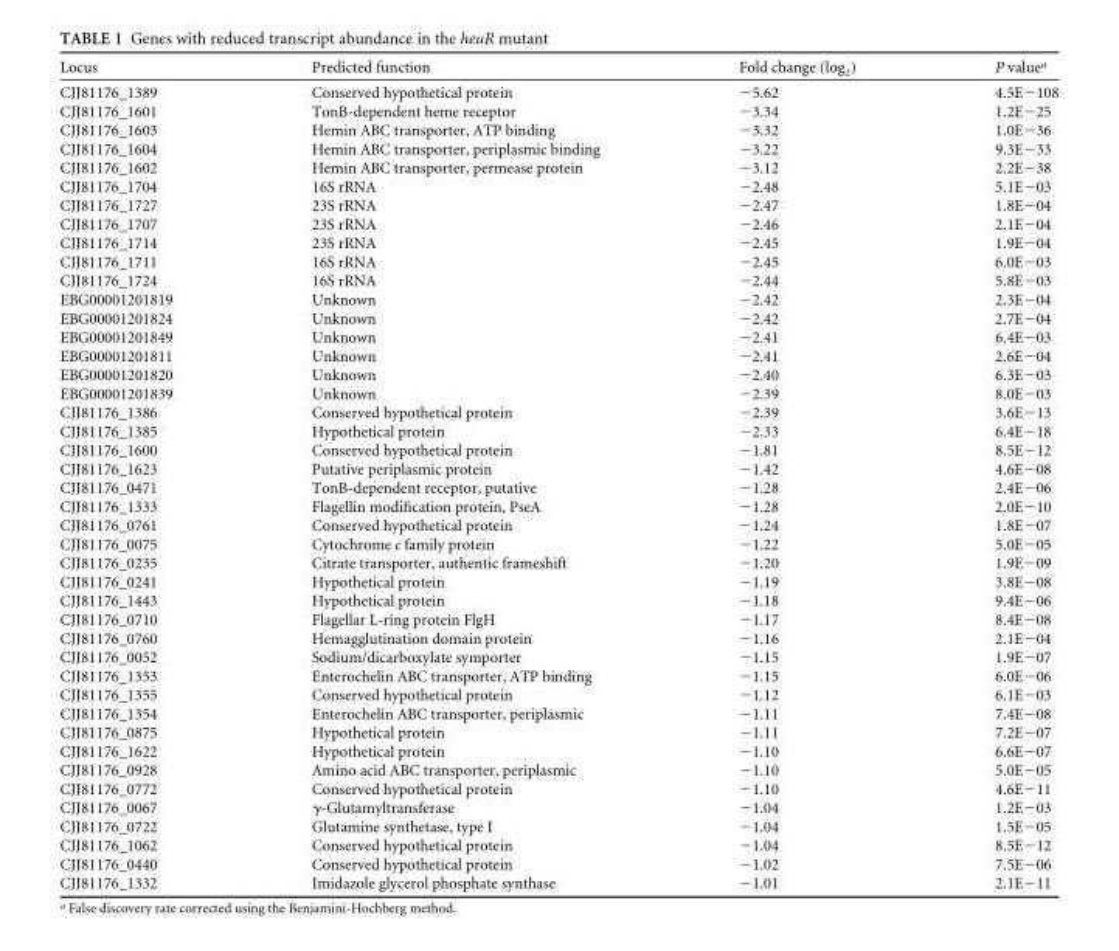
<table><thead><tr><td>Locus</td><td>Predicted function</td><td>Fold change (log<sub>2</sub>)</td><td>P value<sup>a</sup></td></tr></thead><tbody><tr><td>CJJ81176_1389</td><td>Conserved hypothetical protein</td><td>−5.62</td><td>4.5E−108</td></tr><tr><td>CJJ81176_1601</td><td>TonB-dependent heme receptor</td><td>−3.34</td><td>1.2E−25</td></tr><tr><td>CJJ81176_1603</td><td>Hemin ABC transporter, ATP binding</td><td>−3.32</td><td>1.0E−36</td></tr><tr><td>CJJ81176_1604</td><td>Hemin ABC transporter, periplasmic binding</td><td>−3.22</td><td>9.3E−33</td></tr><tr><td>CJJ81176_1602</td><td>Hemin ABC transporter, permease protein</td><td>−3.12</td><td>2.2E−38</td></tr><tr><td>CJJ81176_1704</td><td>16S rRNA</td><td>−2.48</td><td>5.1E−03</td></tr><tr><td>CJJ81176_1727</td><td>23S rRNA</td><td>−2.47</td><td>1.8E−04</td></tr><tr><td>CJJ81176_1707</td><td>23S rRNA</td><td>−2.46</td><td>2.1E−04</td></tr><tr><td>CJJ81176_1714</td><td>23S rRNA</td><td>−2.45</td><td>1.9E−04</td></tr><tr><td>CJJ81176_1711</td><td>16S rRNA</td><td>−2.45</td><td>6.0E−03</td></tr><tr><td>CJJ81176_1724</td><td>16S rRNA</td><td>−2.44</td><td>5.8E−03</td></tr><tr><td>EBG00001201819</td><td>Unknown</td><td>−2.42</td><td>2.3E−04</td></tr><tr><td>EBG00001201824</td><td>Unknown</td><td>−2.42</td><td>2.7E−04</td></tr><tr><td>EBG00001201849</td><td>Unknown</td><td>−2.41</td><td>6.4E−03</td></tr><tr><td>EBG00001201811</td><td>Unknown</td><td>−2.41</td><td>2.6E−04</td></tr><tr><td>EBG00001201820</td><td>Unknown</td><td>−2.40</td><td>6.3E−03</td></tr><tr><td>EBG00001201839</td><td>Unknown</td><td>−2.39</td><td>8.0E−03</td></tr><tr><td>CJJ81176_1386</td><td>Conserved hypothetical protein</td><td>−2.39</td><td>3.6E−13</td></tr><tr><td>CJJ81176_1385</td><td>Hypothetical protein</td><td>−2.33</td><td>6.4E−18</td></tr><tr><td>CJJ81176_1600</td><td>Conserved hypothetical protein</td><td>−1.81</td><td>8.5E−12</td></tr><tr><td>CJJ81176_1623</td><td>Putative periplasmic protein</td><td>−1.42</td><td>4.6E−08</td></tr><tr><td>CJJ81176_0471</td><td>TonB-dependent receptor, putative</td><td>−1.28</td><td>2.4E−06</td></tr><tr><td>CJJ81176_1333</td><td>Flagellin modification protein, PseA</td><td>−1.28</td><td>2.0E−10</td></tr><tr><td>CJJ81176_0761</td><td>Conserved hypothetical protein</td><td>−1.24</td><td>1.8E−07</td></tr><tr><td>CJJ81176_0075</td><td>Cytochrome c family protein</td><td>−1.22</td><td>5.0E−05</td></tr><tr><td>CJJ81176_0235</td><td>Citrate transporter, authentic frameshift</td><td>−1.20</td><td>1.9E−09</td></tr><tr><td>CJJ81176_0241</td><td>Hypothetical protein</td><td>−1.19</td><td>3.8E−08</td></tr><tr><td>CJJ81176_1443</td><td>Hypothetical protein</td><td>−1.18</td><td>9.4E−06</td></tr><tr><td>CJJ81176_0710</td><td>Flagellar L-ring protein FlgH</td><td>−1.17</td><td>8.4E−08</td></tr><tr><td>CJJ81176_0760</td><td>Hemagglutination domain protein</td><td>−1.16</td><td>2.1E−04</td></tr><tr><td>CJJ81176_0052</td><td>Sodium/dicarboxylate symporter</td><td>−1.15</td><td>1.9E−07</td></tr><tr><td>CJJ81176_1353</td><td>Enterochelin ABC transporter, ATP binding</td><td>−1.15</td><td>6.0E−06</td></tr><tr><td>CJJ81176_1355</td><td>Conserved hypothetical protein</td><td>−1.12</td><td>6.1E−03</td></tr><tr><td>CJJ81176_1354</td><td>Enterochelin ABC transporter, periplasmic</td><td>−1.11</td><td>7.4E−08</td></tr><tr><td>CJJ81176_0875</td><td>Hypothetical protein</td><td>−1.11</td><td>7.2E−07</td></tr><tr><td>CJJ81176_1622</td><td>Hypothetical protein</td><td>−1.10</td><td>6.6E−07</td></tr><tr><td>CJJ81176_0928</td><td>Amino acid ABC transporter, periplasmic</td><td>−1.10</td><td>5.0E−05</td></tr><tr><td>CJJ81176_0772</td><td>Conserved hypothetical protein</td><td>−1.10</td><td>4.6E−11</td></tr><tr><td>CJJ81176_0067</td><td>γ-Glutamyltransferase</td><td>−1.04</td><td>1.2E−03</td></tr><tr><td>CJJ81176_0722</td><td>Glutamine synthetase, type I</td><td>−1.04</td><td>1.5E−05</td></tr><tr><td>CJJ81176_1062</td><td>Conserved hypothetical protein</td><td>−1.04</td><td>8.5E−12</td></tr><tr><td>CJJ81176_0440</td><td>Conserved hypothetical protein</td><td>−1.02</td><td>7.5E−06</td></tr><tr><td>CJJ81176_1332</td><td>Imidazole glycerol phosphate synthase</td><td>−1.01</td><td>2.1E−11</td></tr></tbody></table>